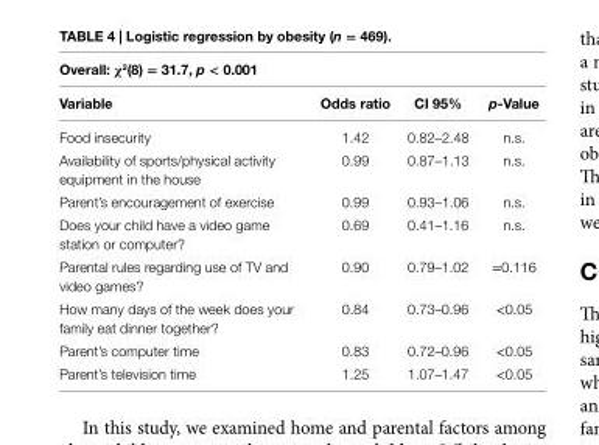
<table><thead><tr><td colspan="4">Overall: χ<sup>2</sup>(8) = 31.7, p &lt; 0.001</td></tr><tr><td>Variable</td><td>Odds ratio</td><td>ci 95%</td><td>p-Value</td></tr></thead><tbody><tr><td>Food insecurity</td><td>1.42</td><td>0.82–2.48</td><td>n.s.</td></tr><tr><td>Availability of sports/physical activity equipment in the house</td><td>0.99</td><td>0.87–1.13</td><td>n.s.</td></tr><tr><td>Parent’s encouragement of exercise</td><td>0.99</td><td>0.93–1.06</td><td>n.s.</td></tr><tr><td>Does your child have a video game station or computer?</td><td>0.69</td><td>0.41–1.16</td><td>n.s.</td></tr><tr><td>Parental rules regarding use of TV and video games?</td><td>0.90</td><td>0.79–1.02</td><td>=0.116</td></tr><tr><td>How many days of the week does your family eat dinner together?</td><td>0.84</td><td>0.73–0.96</td><td>&lt;0.05</td></tr><tr><td>Parent’s computer time</td><td>0.83</td><td>0.72–0.96</td><td>&lt;0.05</td></tr><tr><td>Parent’s television time</td><td>1.25</td><td>1.07–1.47</td><td>&lt;0.05</td></tr></tbody></table>